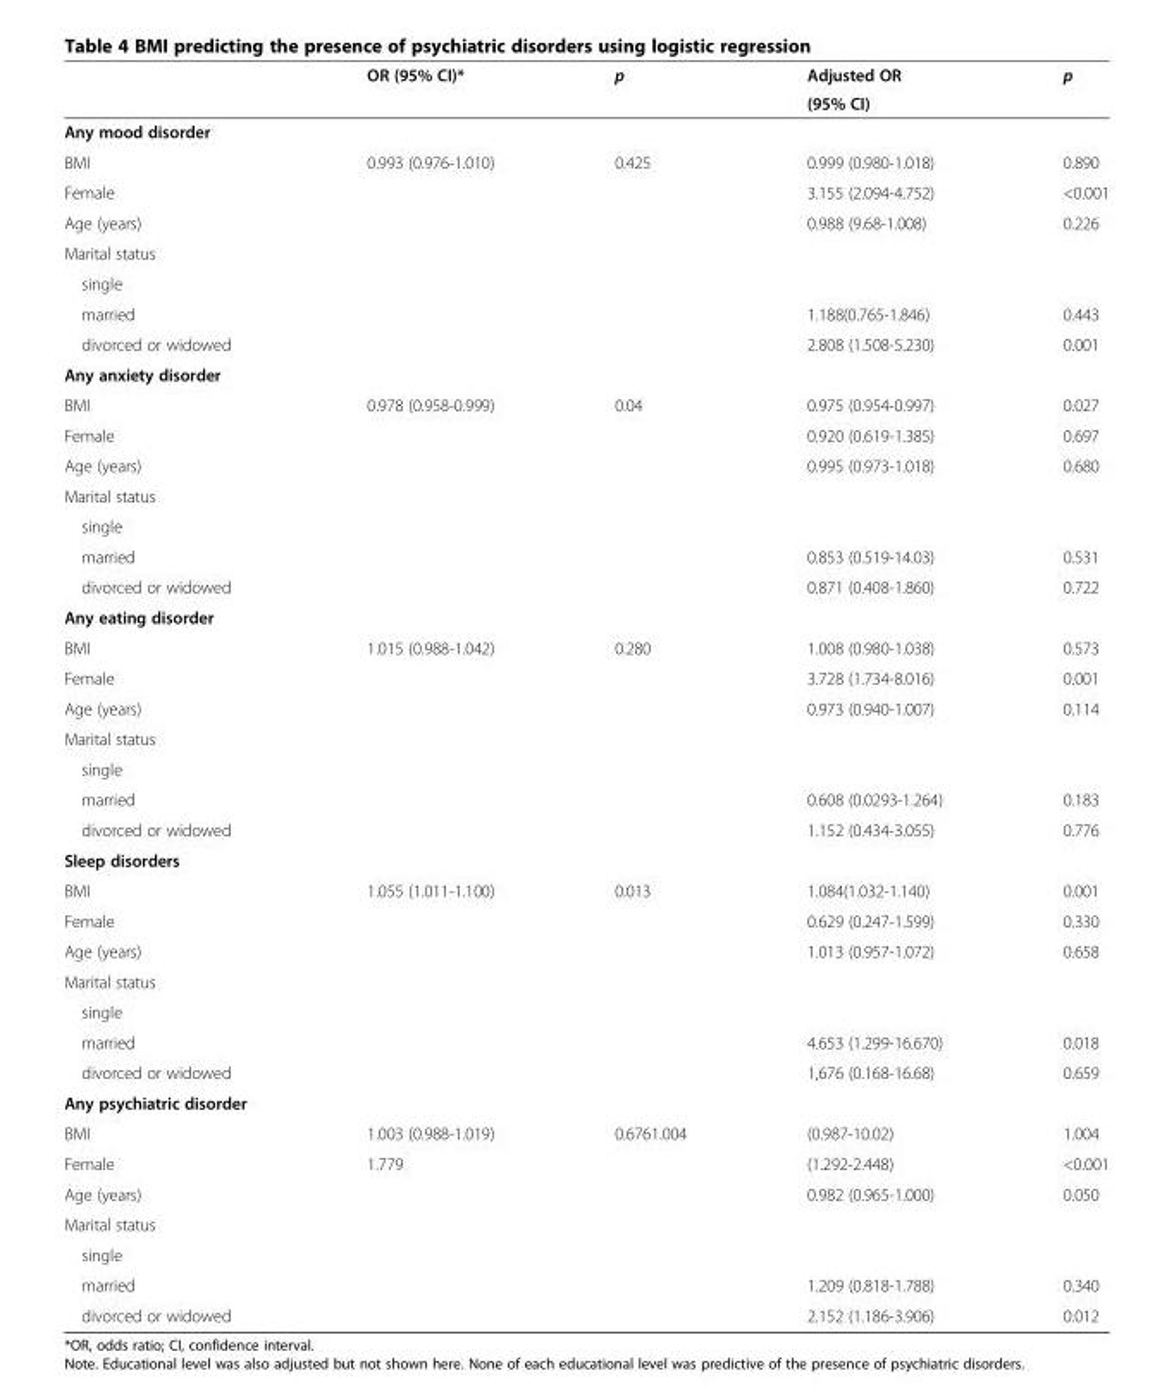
<table><thead><tr><td rowspan="2"></td><td rowspan="2">OR (95% CI)*</td><td rowspan="2">p</td><td rowspan="2">Adjusted OR (95% CI)</td><td rowspan="2">p</td></tr><tr></tr></thead><tbody><tr><td colspan="5">Any mood disorder</td></tr><tr><td>BMI</td><td>0.993 (0.976-1.010)</td><td>0.425</td><td>0.999 (0.980-1.018)</td><td>0.890</td></tr><tr><td>Female</td><td></td><td></td><td>3.155 (2.094-4.752)</td><td>&lt;0.001</td></tr><tr><td>Age (years)</td><td></td><td></td><td>0.988 (9.68-1.008)</td><td>0.226</td></tr><tr><td colspan="5">Marital status</td></tr><tr><td colspan="5">single</td></tr><tr><td>married</td><td></td><td></td><td>1.188(0.765-1.846)</td><td>0.443</td></tr><tr><td>divorced or widowed</td><td></td><td></td><td>2.808 (1.508-5.230)</td><td>0.001</td></tr><tr><td colspan="5">Any anxiety disorder</td></tr><tr><td>BMI</td><td>0.978 (0.958-0.999)</td><td>0.04</td><td>0.975 (0.954-0.997)</td><td>0.027</td></tr><tr><td>Female</td><td></td><td></td><td>0.920 (0.619-1.385)</td><td>0.697</td></tr><tr><td>Age (years)</td><td></td><td></td><td>0.995 (0.973-1.018)</td><td>0.680</td></tr><tr><td colspan="5">Marital status</td></tr><tr><td colspan="5">single</td></tr><tr><td>married</td><td></td><td></td><td>0.853 (0.519-14.03)</td><td>0.531</td></tr><tr><td>divorced or widowed</td><td></td><td></td><td>0.871 (0.408-1.860)</td><td>0.722</td></tr><tr><td colspan="5">Any eating disorder</td></tr><tr><td>BMI</td><td>1.015 (0.988-1.042)</td><td>0.280</td><td>1.008 (0.980-1.038)</td><td>0.573</td></tr><tr><td>Female</td><td></td><td></td><td>3.728 (1.734-8.016)</td><td>0.001</td></tr><tr><td>Age (years)</td><td></td><td></td><td>0.973 (0.940-1.007)</td><td>0.114</td></tr><tr><td colspan="5">Marital status</td></tr><tr><td colspan="5">single</td></tr><tr><td>married</td><td></td><td></td><td>0.608 (0.0293-1.264)</td><td>0.183</td></tr><tr><td>divorced or widowed</td><td></td><td></td><td>1.152 (0.434-3.055)</td><td>0.776</td></tr><tr><td colspan="5">Sleep disorders</td></tr><tr><td>BMI</td><td>1.055 (1.011-1.100)</td><td>0.013</td><td>1.084(1.032-1.140)</td><td>0.001</td></tr><tr><td>Female</td><td></td><td></td><td>0.629 (0.247-1.599)</td><td>0.330</td></tr><tr><td>Age (years)</td><td></td><td></td><td>1.013 (0.957-1.072)</td><td>0.658</td></tr><tr><td colspan="5">Marital status</td></tr><tr><td colspan="5">single</td></tr><tr><td>married</td><td></td><td></td><td>4.653 (1.299-16.670)</td><td>0.018</td></tr><tr><td>divorced or widowed</td><td></td><td></td><td>1,676 (0.168-16.68)</td><td>0.659</td></tr><tr><td colspan="5">Any psychiatric disorder</td></tr><tr><td>BMI</td><td>1.003 (0.988-1.019)</td><td>0.6761.004</td><td>(0.987-10.02)</td><td>1.004</td></tr><tr><td>Female</td><td>1.779</td><td></td><td>(1.292-2.448)</td><td>&lt;0.001</td></tr><tr><td>Age (years)</td><td></td><td></td><td>0.982 (0.965-1.000)</td><td>0.050</td></tr><tr><td colspan="5">Marital status</td></tr><tr><td colspan="5">single</td></tr><tr><td>married</td><td></td><td></td><td>1.209 (0.818-1.788)</td><td>0.340</td></tr><tr><td>divorced or widowed</td><td></td><td></td><td>2.152 (1.186-3.906)</td><td>0.012</td></tr></tbody></table>